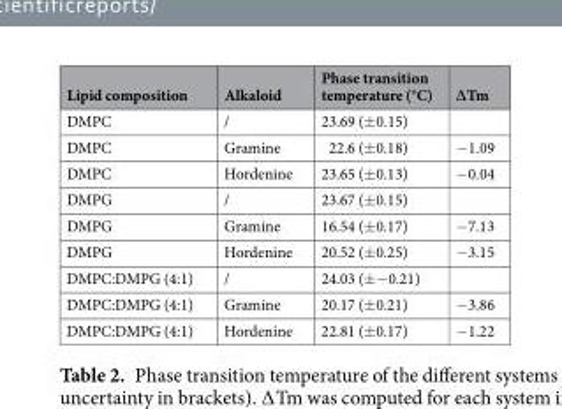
<table><thead><tr><td>Lipid composition</td><td>Alkaloid</td><td>Phase transition temperature (°C)</td><td>∆Tm</td></tr></thead><tbody><tr><td>DMPC</td><td>/</td><td>23.69 (±0.15)</td><td></td></tr><tr><td>DMPC</td><td>Gramine</td><td>22.6 (±0.18)</td><td>−1.09</td></tr><tr><td>DMPC</td><td>Hordenine</td><td>23.65 (±0.13)</td><td>−0.04</td></tr><tr><td>DMPG</td><td>/</td><td>23.67 (±0.15)</td><td></td></tr><tr><td>DMPG</td><td>Gramine</td><td>16.54 (±0.17)</td><td>−7.13</td></tr><tr><td>DMPG</td><td>Hordenine</td><td>20.52 (±0.25)</td><td>−3.15</td></tr><tr><td>DMPC:DMPG (4:1)</td><td>/</td><td>24.03 (±−0.21)</td><td></td></tr><tr><td>DMPC:DMPG (4:1)</td><td>Gramine</td><td>20.17 (±0.21)</td><td>−3.86</td></tr><tr><td>DMPC:DMPG (4:1)</td><td>Hordenine</td><td>22.81 (±0.17)</td><td>−1.22</td></tr></tbody></table>